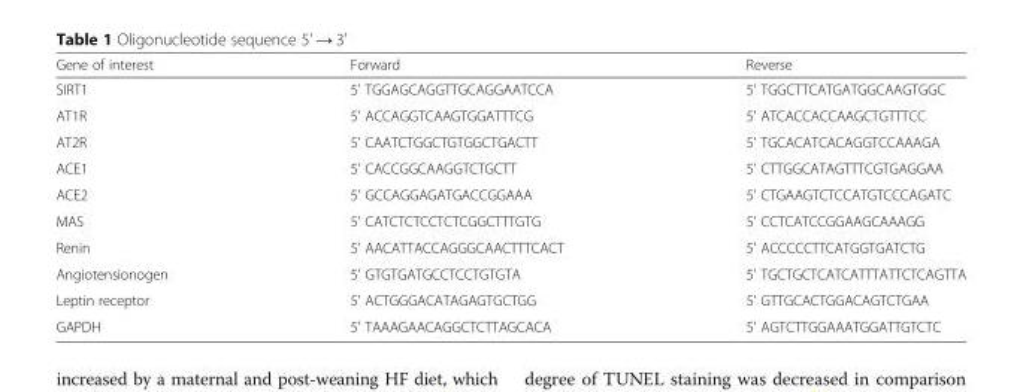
<table><thead><tr><td>Gene of interest</td><td>Forward</td><td>Reverse</td></tr></thead><tbody><tr><td>SIRT1</td><td>5&#x27; TGGAGCAGGTTGCAGGAATCCA</td><td>5&#x27; TGGCTTCATGATGGCAAGTGGC</td></tr><tr><td>AT1R</td><td>5&#x27; ACCAGGTCAAGTGGATTTCG</td><td>5&#x27; ATCACCACCAAGCTGTTTCC</td></tr><tr><td>AT2R</td><td>5&#x27; CAATCTGGCTGTGGCTGACTT</td><td>5&#x27; TGCACATCACAGGTCCAAAGA</td></tr><tr><td>ACE1</td><td>5&#x27; CACCGGCAAGGTCTGCTT</td><td>5&#x27; CTTGGCATAGTTTCGTGAGGAA</td></tr><tr><td>ACE2</td><td>5&#x27; GCCAGGAGATGACCGGAAA</td><td>5&#x27; CTGAAGTCTCCATGTCCCAGATC</td></tr><tr><td>MAS</td><td>5&#x27; CATCTCTCCTCTCGGCTTTGTG</td><td>5&#x27; CCTCATCCGGAAGCAAAGG</td></tr><tr><td>Renin</td><td>5&#x27; AACATTACCAGGGCAACTTTCACT</td><td>5&#x27; ACCCCCTTCATGGTGATCTG</td></tr><tr><td>Angiotensionogen</td><td>5&#x27; GTGTGATGCCTCCTGTGTA</td><td>5&#x27; TGCTGCTCATCATTTATTCTCAGTTA</td></tr><tr><td>Leptin receptor</td><td>5&#x27; ACTGGGACATAGAGTGCTGG</td><td>5&#x27; GTTGCACTGGACAGTCTGAA</td></tr><tr><td>GAPDH</td><td>5&#x27; TAAAGAACAGGCTCTTAGCACA</td><td>5&#x27; AGTCTTGGAAATGGATTGTCTC</td></tr></tbody></table>